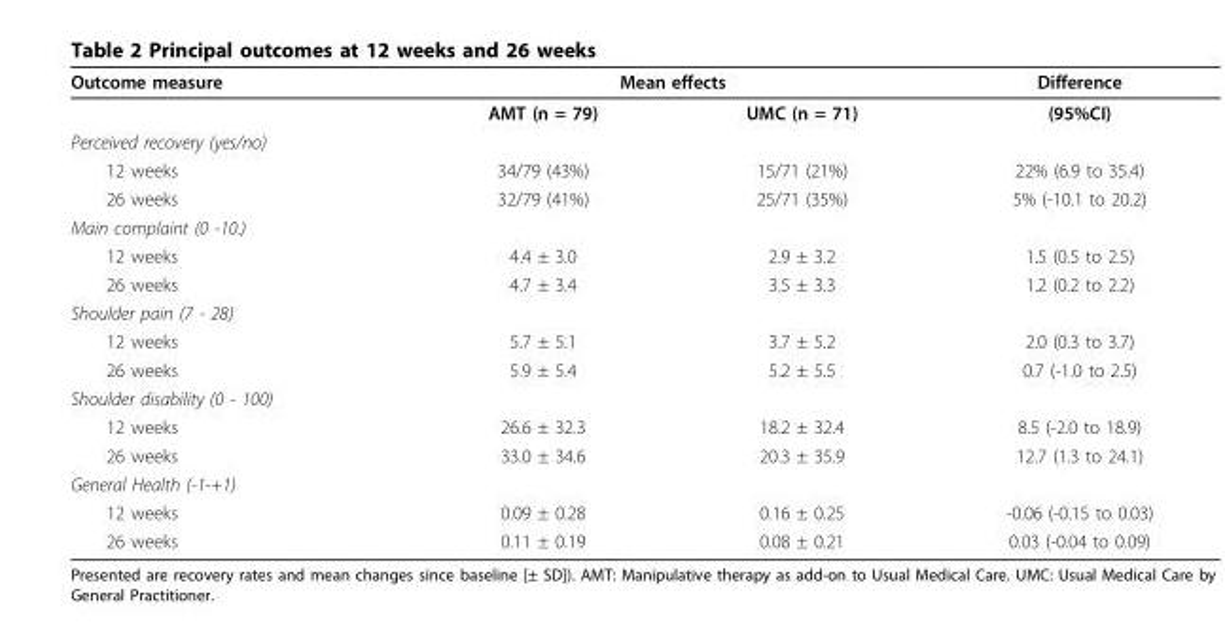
<table><thead><tr><td rowspan="2">Outcome measure</td><td colspan="2">Mean effects</td><td rowspan="2">Difference (95%CI)</td></tr><tr><td>AMT (n = 79)</td><td>UMC (n = 71)</td></tr></thead><tbody><tr><td colspan="4">Perceived recovery (yes/no)</td></tr><tr><td>12 weeks</td><td>34/79 (43%)</td><td>15/71 (21%)</td><td>22% (6.9 to 35.4)</td></tr><tr><td>26 weeks</td><td>32/79 (41%)</td><td>25/71 (35%)</td><td>5% (-10.1 to 20.2)</td></tr><tr><td colspan="4">Main complaint (0 -10.)</td></tr><tr><td>12 weeks</td><td>4.4 ± 3.0</td><td>2.9 ± 3.2</td><td>1.5 (0.5 to 2.5)</td></tr><tr><td>26 weeks</td><td>4.7 ± 3.4</td><td>3.5 ± 3.3</td><td>1.2 (0.2 to 2.2)</td></tr><tr><td colspan="4">Shoulder pain (7 - 28)</td></tr><tr><td>12 weeks</td><td>5.7 ± 5.1</td><td>3.7 ± 5.2</td><td>2.0 (0.3 to 3.7)</td></tr><tr><td>26 weeks</td><td>5.9 ± 5.4</td><td>5.2 ± 5.5</td><td>0.7 (-1.0 to 2.5)</td></tr><tr><td colspan="4">Shoulder disability (0 - 100)</td></tr><tr><td>12 weeks</td><td>26.6 ± 32.3</td><td>18.2 ± 32.4</td><td>8.5 (-2.0 to 18.9)</td></tr><tr><td>26 weeks</td><td>33.0 ± 34.6</td><td>20.3 ± 35.9</td><td>12.7 (1.3 to 24.1)</td></tr><tr><td colspan="4">General Health (-1-+1)</td></tr><tr><td>12 weeks</td><td>0.09 ± 0.28</td><td>0.16 ± 0.25</td><td>-0.06 (-0.15 to 0.03)</td></tr><tr><td>26 weeks</td><td>0.11 ± 0.19</td><td>0.08 ± 0.21</td><td>0.03 (-0.04 to 0.09)</td></tr></tbody></table>